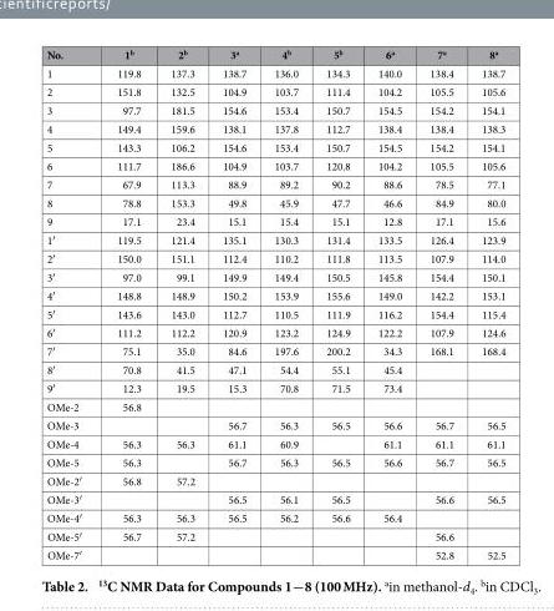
<table><thead><tr><td>No.</td><td>1<sup>b</sup></td><td>2<sup>b</sup></td><td>3<sup>a</sup></td><td>4<sup>b</sup></td><td>5<sup>b</sup></td><td>6<sup>a</sup></td><td>7<sup>a</sup></td><td>8<sup>a</sup></td></tr></thead><tbody><tr><td>1</td><td>119.8</td><td>137.3</td><td>138.7</td><td>136.0</td><td>134.3</td><td>140.0</td><td>138.4</td><td>138.7</td></tr><tr><td>2</td><td>151.8</td><td>132.5</td><td>104.9</td><td>103.7</td><td>111.4</td><td>104.2</td><td>105.5</td><td>105.6</td></tr><tr><td>3</td><td>97.7</td><td>181.5</td><td>154.6</td><td>153.4</td><td>150.7</td><td>154.5</td><td>154.2</td><td>154.1</td></tr><tr><td>4</td><td>149.4</td><td>159.6</td><td>138.1</td><td>137.8</td><td>112.7</td><td>138.4</td><td>138.4</td><td>138.3</td></tr><tr><td>5</td><td>143.3</td><td>106.2</td><td>154.6</td><td>153.4</td><td>150.7</td><td>154.5</td><td>154.2</td><td>154.1</td></tr><tr><td>6</td><td>111.7</td><td>186.6</td><td>104.9</td><td>103.7</td><td>120.8</td><td>104.2</td><td>105.5</td><td>105.6</td></tr><tr><td>7</td><td>67.9</td><td>113.3</td><td>88.9</td><td>89.2</td><td>90.2</td><td>88.6</td><td>78.5</td><td>77.1</td></tr><tr><td>8</td><td>78.8</td><td>153.3</td><td>49.8</td><td>45.9</td><td>47.7</td><td>46.6</td><td>84.9</td><td>80.0</td></tr><tr><td>9</td><td>17.1</td><td>23.4</td><td>15.1</td><td>15.4</td><td>15.1</td><td>12.8</td><td>17.1</td><td>15.6</td></tr><tr><td>1′</td><td>119.5</td><td>121.4</td><td>135.1</td><td>130.3</td><td>131.4</td><td>133.5</td><td>126.4</td><td>123.9</td></tr><tr><td>2′</td><td>150.0</td><td>151.1</td><td>112.4</td><td>110.2</td><td>111.8</td><td>113.5</td><td>107.9</td><td>114.0</td></tr><tr><td>3′</td><td>97.0</td><td>99.1</td><td>149.9</td><td>149.4</td><td>150.5</td><td>145.8</td><td>154.4</td><td>150.1</td></tr><tr><td>4′</td><td>148.8</td><td>148.9</td><td>150.2</td><td>153.9</td><td>155.6</td><td>149.0</td><td>142.2</td><td>153.1</td></tr><tr><td>5′</td><td>143.6</td><td>143.0</td><td>112.7</td><td>110.5</td><td>111.9</td><td>116.2</td><td>154.4</td><td>115.4</td></tr><tr><td>6′</td><td>111.2</td><td>112.2</td><td>120.9</td><td>123.2</td><td>124.9</td><td>122.2</td><td>107.9</td><td>124.6</td></tr><tr><td>7′</td><td>75.1</td><td>35.0</td><td>84.6</td><td>197.6</td><td>200.2</td><td>34.3</td><td>168.1</td><td>168.4</td></tr><tr><td>8′</td><td>70.8</td><td>41.5</td><td>47.1</td><td>54.4</td><td>55.1</td><td>45.4</td><td></td><td></td></tr><tr><td>9′</td><td>12.3</td><td>19.5</td><td>15.3</td><td>70.8</td><td>71.5</td><td>73.4</td><td></td><td></td></tr><tr><td>OMe-2</td><td>56.8</td><td></td><td></td><td></td><td></td><td></td><td></td><td></td></tr><tr><td>OMe-3</td><td></td><td></td><td>56.7</td><td>56.3</td><td>56.5</td><td>56.6</td><td>56.7</td><td>56.5</td></tr><tr><td>OMe-4</td><td>56.3</td><td>56.3</td><td>61.1</td><td>60.9</td><td></td><td>61.1</td><td>61.1</td><td>61.1</td></tr><tr><td>OMe-5</td><td>56.3</td><td></td><td>56.7</td><td>56.3</td><td>56.5</td><td>56.6</td><td>56.7</td><td>56.5</td></tr><tr><td>OMe-2′</td><td>56.8</td><td>57.2</td><td></td><td></td><td></td><td></td><td></td><td></td></tr><tr><td>OMe-3′</td><td></td><td></td><td>56.5</td><td>56.1</td><td>56.5</td><td></td><td>56.6</td><td>56.5</td></tr><tr><td>OMe-4′</td><td>56.3</td><td>56.3</td><td>56.5</td><td>56.2</td><td>56.6</td><td>56.4</td><td></td><td></td></tr><tr><td>OMe-5′</td><td>56.7</td><td>57.2</td><td></td><td></td><td></td><td></td><td>56.6</td><td></td></tr><tr><td>OMe-7′</td><td></td><td></td><td></td><td></td><td></td><td></td><td>52.8</td><td>52.5</td></tr></tbody></table>